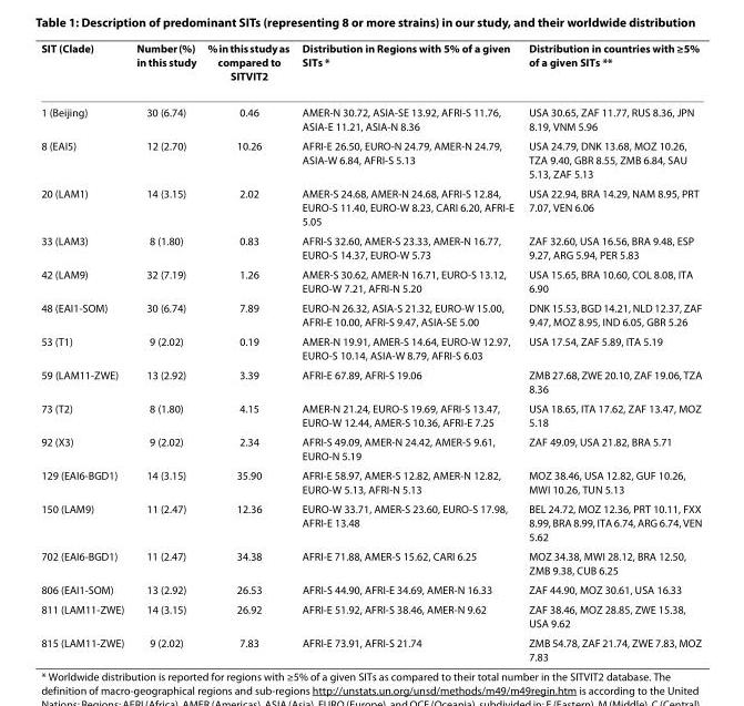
<table><thead><tr><td>SIT (Clade)</td><td>Number (%) in this study</td><td>% in this study as compared to SITVIT2</td><td>Distribution in Regions with 5% of a given SITs *</td><td>Distribution in countries with ≥5% of a given SITs **</td></tr></thead><tbody><tr><td>1 (Beijing)</td><td>30 (6.74)</td><td>0.46</td><td>AMER-N 30.72, ASIA-SE 13.92, AFRI-S 11.76, ASIA-E 11.21, ASIA-N 8.36</td><td>USA 30.65, ZAF 11.77, RUS 8.36, JPN 8.19, VNM 5.96</td></tr><tr><td>8 (EAI5)</td><td>12 (2.70)</td><td>10.26</td><td>AFRI-E 26.50, EURO-N 24.79, AMER-N 24.79, ASIA-W 6.84, AFRI-S 5.13</td><td>USA 24.79, DNK 13.68, MOZ 10.26, TZA 9.40, GBR 8.55, ZMB 6.84, SAU 5.13, ZAF 5.13</td></tr><tr><td>20 (LAM1)</td><td>14 (3.15)</td><td>2.02</td><td>AMER-S 24.68, AMER-N 24.68, AFRI-S 12.84, EURO-S 11.40, EURO-W 8.23, CARI 6.20, AFRI-E 5.05</td><td>USA 22.94, BRA 14.29, NAM 8.95, PRT 7.07, VEN 6.06</td></tr><tr><td>33 (LAM3)</td><td>8 (1.80)</td><td>0.83</td><td>AFRI-S 32.60, AMER-S 23.33, AMER-N 16.77, EURO-S 14.37, EURO-W 5.73</td><td>ZAF 32.60, USA 16.56, BRA 9.48, ESP 9.27, ARG 5.94, PER 5.83</td></tr><tr><td>42 (LAM9)</td><td>32 (7.19)</td><td>1.26</td><td>AMER-S 30.62, AMER-N 16.71, EURO-S 13.12, EURO-W 7.21, AFRI-N 5.20</td><td>USA 15.65, BRA 10.60, COL 8.08, ITA 6.90</td></tr><tr><td>48 (EAI1-SOM)</td><td>30 (6.74)</td><td>7.89</td><td>EURO-N 26.32, ASIA-S 21.32, EURO-W 15.00, AFRI-E 10.00, AFRI-S 9.47, ASIA-SE 5.00</td><td>DNK 15.53, BGD 14.21, NLD 12.37, ZAF 9.47, MOZ 8.95, IND 6.05, GBR 5.26</td></tr><tr><td>53 (T1)</td><td>9 (2.02)</td><td>0.19</td><td>AMER-N 19.91, AMER-S 14.64, EURO-W 12.97, EURO-S 10.14, ASIA-W 8.79, AFRI-S 6.03</td><td>USA 17.54, ZAF 5.89, ITA 5.19</td></tr><tr><td>59 (LAM11-ZWE)</td><td>13 (2.92)</td><td>3.39</td><td>AFRI-E 67.89, AFRI-S 19.06</td><td>ZMB 27.68, ZWE 20.10, ZAF 19.06, TZA 8.36</td></tr><tr><td>73 (T2)</td><td>8 (1.80)</td><td>4.15</td><td>AMER-N 21.24, EURO-S 19.69, AFRI-S 13.47, EURO-W 12.44, AMER-S 10.36, AFRI-E 7.25</td><td>USA 18.65, ITA 17.62, ZAF 13.47, MOZ 5.18</td></tr><tr><td>92 (X3)</td><td>9 (2.02)</td><td>2.34</td><td>AFRI-S 49.09, AMER-N 24.42, AMER-S 9.61, EURO-N 5.19</td><td>ZAF 49.09, USA 21.82, BRA 5.71</td></tr><tr><td>129 (EAI6-BGD1)</td><td>14 (3.15)</td><td>35.90</td><td>AFRI-E 58.97, AMER-S 12.82, AMER-N 12.82, EURO-W 5.13, AFRI-N 5.13</td><td>MOZ 38.46, USA 12.82, GUF 10.26, MWI 10.26, TUN 5.13</td></tr><tr><td>150 (LAM9)</td><td>11 (2.47)</td><td>12.36</td><td>EURO-W 33.71, AMER-S 23.60, EURO-S 17.98, AFRI-E 13.48</td><td>BEL 24.72, MOZ 12.36, PRT 10.11, FXX 8.99, BRA 8.99, ITA 6.74, ARG 6.74, VEN 5.62</td></tr><tr><td>702 (EAI6-BGD1)</td><td>11 (2.47)</td><td>34.38</td><td>AFRI-E 71.88, AMER-S 15.62, CARI 6.25</td><td>MOZ 34.38, MWI 28.12, BRA 12.50, ZMB 9.38, CUB 6.25</td></tr><tr><td>806 (EAI1-SOM)</td><td>13 (2.92)</td><td>26.53</td><td>AFRI-S 44.90, AFRI-E 34.69, AMER-N 16.33</td><td>ZAF 44.90, MOZ 30.61, USA 16.33</td></tr><tr><td>811 (LAM11-ZWE)</td><td>14 (3.15)</td><td>26.92</td><td>AFRI-E 51.92, AFRI-S 38.46, AMER-N 9.62</td><td>ZAF 38.46, MOZ 28.85, ZWE 15.38, USA 9.62</td></tr><tr><td>815 (LAM11-ZWE)</td><td>9 (2.02)</td><td>7.83</td><td>AFRI-E 73.91, AFRI-S 21.74</td><td>ZMB 54.78, ZAF 21.74, ZWE 7.83, MOZ 7.83</td></tr></tbody></table>